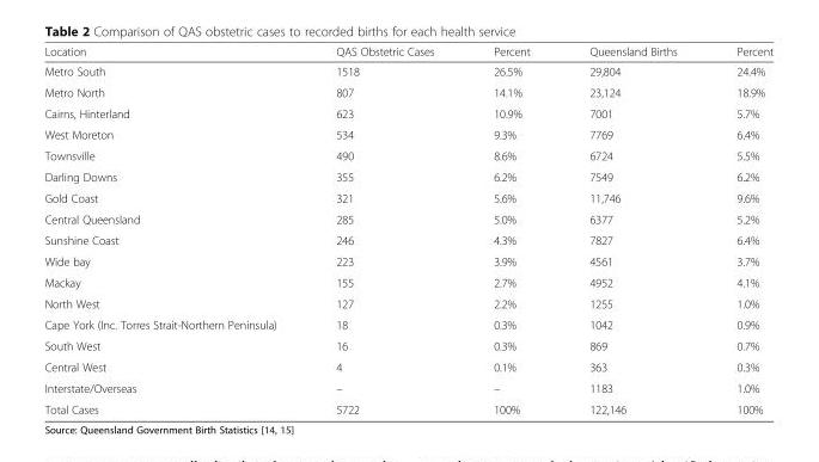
<table><thead><tr><td>Location</td><td>QAS Obstetric Cases</td><td>Percent</td><td>Queensland Births</td><td>Percent</td></tr></thead><tbody><tr><td>Metro South</td><td>1518</td><td>26.5%</td><td>29,804</td><td>24.4%</td></tr><tr><td>Metro North</td><td>807</td><td>14.1%</td><td>23,124</td><td>18.9%</td></tr><tr><td>Cairns, Hinterland</td><td>623</td><td>10.9%</td><td>7001</td><td>5.7%</td></tr><tr><td>West Moreton</td><td>534</td><td>9.3%</td><td>7769</td><td>6.4%</td></tr><tr><td>Townsville</td><td>490</td><td>8.6%</td><td>6724</td><td>5.5%</td></tr><tr><td>Darling Downs</td><td>355</td><td>6.2%</td><td>7549</td><td>6.2%</td></tr><tr><td>Gold Coast</td><td>321</td><td>5.6%</td><td>11,746</td><td>9.6%</td></tr><tr><td>Central Queensland</td><td>285</td><td>5.0%</td><td>6377</td><td>5.2%</td></tr><tr><td>Sunshine Coast</td><td>246</td><td>4.3%</td><td>7827</td><td>6.4%</td></tr><tr><td>Wide bay</td><td>223</td><td>3.9%</td><td>4561</td><td>3.7%</td></tr><tr><td>Mackay</td><td>155</td><td>2.7%</td><td>4952</td><td>4.1%</td></tr><tr><td>North West</td><td>127</td><td>2.2%</td><td>1255</td><td>1.0%</td></tr><tr><td>Cape York (Inc. Torres Strait-Northern Peninsula)</td><td>18</td><td>0.3%</td><td>1042</td><td>0.9%</td></tr><tr><td>South West</td><td>16</td><td>0.3%</td><td>869</td><td>0.7%</td></tr><tr><td>Central West</td><td>4</td><td>0.1%</td><td>363</td><td>0.3%</td></tr><tr><td>Interstate/Overseas</td><td>–</td><td>–</td><td>1183</td><td>1.0%</td></tr><tr><td>Total Cases</td><td>5722</td><td>100%</td><td>122,146</td><td>100%</td></tr></tbody></table>